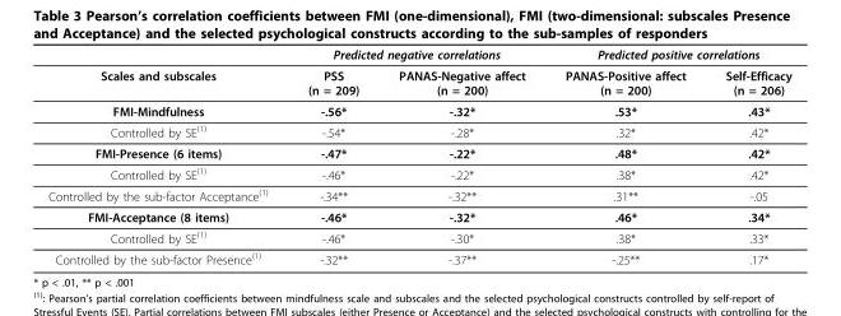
<table><thead><tr><td rowspan="2">Scales and subscales</td><td colspan="2">Predicted negative correlations</td><td colspan="2">Predicted positive correlations</td></tr><tr><td>PSS (n = 209)</td><td>PANAS-Negative affect (n = 200)</td><td>PANAS-Positive affect (n = 200)</td><td>Self-Efficacy (n = 206)</td></tr></thead><tbody><tr><td>FMI-Mindfulness</td><td>-.56*</td><td>-.32*</td><td>.53*</td><td>.43*</td></tr><tr><td>Controlled by SE<sup>(1)</sup></td><td>-.54*</td><td>-.28*</td><td>.32*</td><td>.42*</td></tr><tr><td>FMI-Presence (6 items)</td><td>-.47*</td><td>-.22*</td><td>.48*</td><td>.42*</td></tr><tr><td>Controlled by SE<sup>(1)</sup></td><td>-.46*</td><td>-.22*</td><td>.38*</td><td>.42*</td></tr><tr><td>Controlled by the sub-factor Acceptance<sup>(1)</sup></td><td>-.34**</td><td>-.32**</td><td>.31**</td><td>-.05</td></tr><tr><td>FMI-Acceptance (8 items)</td><td>-.46*</td><td>-.32*</td><td>.46*</td><td>.34*</td></tr><tr><td>Controlled by SE<sup>(1)</sup></td><td>-.46*</td><td>-.30*</td><td>.38*</td><td>.33*</td></tr><tr><td>Controlled by the sub-factor Presence<sup>(1)</sup></td><td>-.32**</td><td>-.37**</td><td>-.25**</td><td>.17*</td></tr></tbody></table>